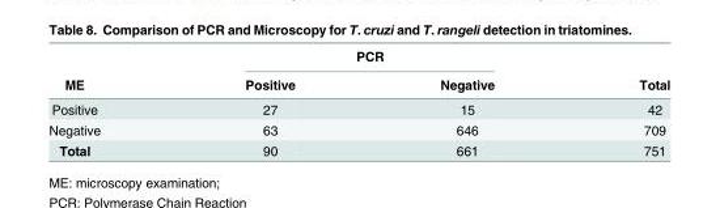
<table><thead><tr><td rowspan="2">ME</td><td colspan="2">PCR</td><td rowspan="2">Total</td></tr><tr><td>Positive</td><td>Negative</td></tr></thead><tbody><tr><td>Positive</td><td>27</td><td>15</td><td>42</td></tr><tr><td>Negative</td><td>63</td><td>646</td><td>709</td></tr><tr><td>Total</td><td>90</td><td>661</td><td>751</td></tr></tbody></table>